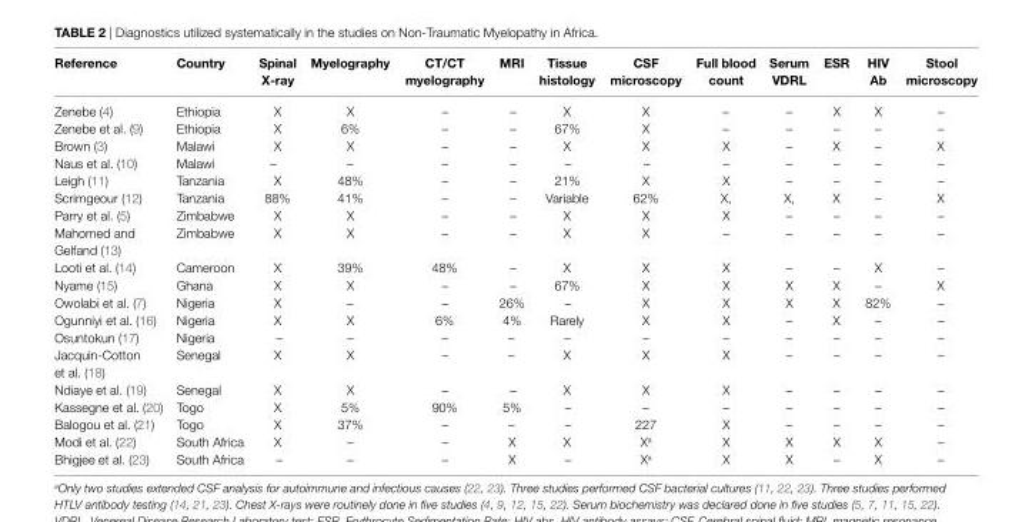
<table><thead><tr><td>Reference</td><td>Country</td><td>Spinal X-ray</td><td>Myelography</td><td>CT/CT myelography</td><td>MRi</td><td>Tissue histology</td><td>CSF microscopy</td><td>Full blood count</td><td>Serum vDRL</td><td>eSR</td><td>Hiv Ab</td><td>Stool microscopy</td></tr></thead><tbody><tr><td>Zenebe (4)</td><td>Ethiopia</td><td>X</td><td>X</td><td>–</td><td>–</td><td>X</td><td>X</td><td>–</td><td>–</td><td>X</td><td>X</td><td>–</td></tr><tr><td>Zenebe et al. (9)</td><td>Ethiopia</td><td>X</td><td>6%</td><td>–</td><td>–</td><td>67%</td><td>X</td><td>–</td><td>–</td><td>–</td><td>–</td><td>–</td></tr><tr><td>Brown (3)</td><td>Malawi</td><td>X</td><td>X</td><td>–</td><td>–</td><td>X</td><td>X</td><td>X</td><td>–</td><td>X</td><td>–</td><td>X</td></tr><tr><td>Naus et al. (10)</td><td>Malawi</td><td>–</td><td>–</td><td>–</td><td>–</td><td>–</td><td>–</td><td>–</td><td>–</td><td>–</td><td>–</td><td>–</td></tr><tr><td>Leigh (11)</td><td>Tanzania</td><td>X</td><td>48%</td><td>–</td><td>–</td><td>21%</td><td>X</td><td>X</td><td>–</td><td>–</td><td>–</td><td>–</td></tr><tr><td>Scrimgeour (12)</td><td>Tanzania</td><td>88%</td><td>41%</td><td>–</td><td>–</td><td>Variable</td><td>62%</td><td>X,</td><td>X,</td><td>X</td><td>–</td><td>X</td></tr><tr><td>Parry et al. (5)</td><td>Zimbabwe</td><td>X</td><td>X</td><td>–</td><td>–</td><td>X</td><td>X</td><td>X</td><td>–</td><td>–</td><td>–</td><td>–</td></tr><tr><td>Mahomed and Gelfand (13)</td><td>Zimbabwe</td><td>X</td><td>X</td><td>–</td><td>–</td><td>X</td><td>X</td><td>–</td><td>–</td><td>–</td><td>–</td><td>–</td></tr><tr><td>Looti et al. (14)</td><td>Cameroon</td><td>X</td><td>39%</td><td>48%</td><td>–</td><td>X</td><td>X</td><td>X</td><td>–</td><td>–</td><td>X</td><td>–</td></tr><tr><td>Nyame (15)</td><td>Ghana</td><td>X</td><td>X</td><td>–</td><td>–</td><td>67%</td><td>X</td><td>X</td><td>X</td><td>X</td><td>–</td><td>X</td></tr><tr><td>Owolabi et al. (7)</td><td>Nigeria</td><td>X</td><td>–</td><td>–</td><td>26%</td><td>–</td><td>X</td><td>X</td><td>X</td><td>X</td><td>82%</td><td>–</td></tr><tr><td>Ogunniyi et al. (16)</td><td>Nigeria</td><td>X</td><td>X</td><td>6%</td><td>4%</td><td>Rarely</td><td>X</td><td>X</td><td>–</td><td>X</td><td>–</td><td>–</td></tr><tr><td>Osuntokun (17)</td><td>Nigeria</td><td>–</td><td>–</td><td>–</td><td>–</td><td>–</td><td>–</td><td>–</td><td>–</td><td>–</td><td>–</td><td>–</td></tr><tr><td>Jacquin-Cotton et al. (18)</td><td>Senegal</td><td>X</td><td>X</td><td>–</td><td>–</td><td>X</td><td>X</td><td>X</td><td>–</td><td>–</td><td>–</td><td>–</td></tr><tr><td>Ndiaye et al. (19)</td><td>Senegal</td><td>X</td><td>X</td><td>–</td><td>–</td><td>X</td><td>X</td><td>X</td><td>–</td><td>–</td><td>–</td><td>–</td></tr><tr><td>Kassegne et al. (20)</td><td>Togo</td><td>X</td><td>5%</td><td>90%</td><td>5%</td><td>–</td><td>–</td><td>–</td><td>–</td><td>–</td><td>–</td><td>–</td></tr><tr><td>Balogou et al. (21)</td><td>Togo</td><td>X</td><td>37%</td><td>–</td><td>–</td><td>–</td><td>227</td><td>X</td><td>–</td><td>–</td><td>–</td><td>–</td></tr><tr><td>Modi et al. (22)</td><td>South Africa</td><td>X</td><td>–</td><td>–</td><td>X</td><td>X</td><td>X<sup>a</sup></td><td>X</td><td>X</td><td>X</td><td>X</td><td>–</td></tr><tr><td>Bhigjee et al. (23)</td><td>South Africa</td><td>–</td><td>–</td><td>–</td><td>X</td><td>–</td><td>X<sup>a</sup></td><td>X</td><td>X</td><td>–</td><td>X</td><td>–</td></tr></tbody></table>